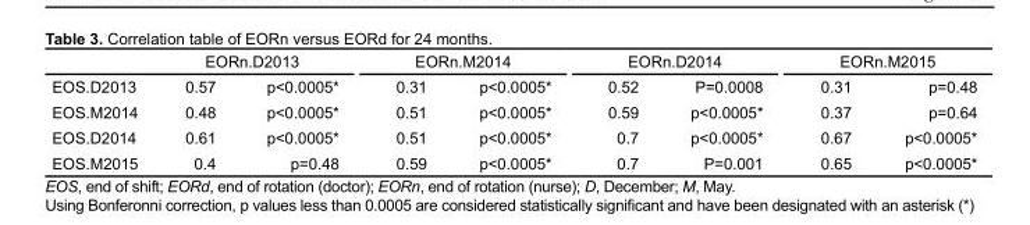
<table><thead><tr><td rowspan="2">EOS.D2013</td><td colspan="2">EORn.D2013</td><td colspan="2">EORn.M2014</td><td colspan="2">EORn.D2014</td><td colspan="2">EORn.M2015</td></tr><tr><td>0.57</td><td>p&lt;0.0005*</td><td>0.31</td><td>p&lt;0.0005*</td><td>0.52</td><td>P=0.0008</td><td>0.31</td><td>p=0.48</td></tr></thead><tbody><tr><td>EOS.M2014</td><td>0.48</td><td>p&lt;0.0005*</td><td>0.51</td><td>p&lt;0.0005*</td><td>0.59</td><td>p&lt;0.0005*</td><td>0.37</td><td>p=0.64</td></tr><tr><td>EOS.D2014</td><td>0.61</td><td>p&lt;0.0005*</td><td>0.51</td><td>p&lt;0.0005*</td><td>0.7</td><td>p&lt;0.0005*</td><td>0.67</td><td>p&lt;0.0005*</td></tr><tr><td>EOS.M2015</td><td>0.4</td><td>p=0.48</td><td>0.59</td><td>p&lt;0.0005*</td><td>0.7</td><td>P=0.001</td><td>0.65</td><td>p&lt;0.0005*</td></tr></tbody></table>